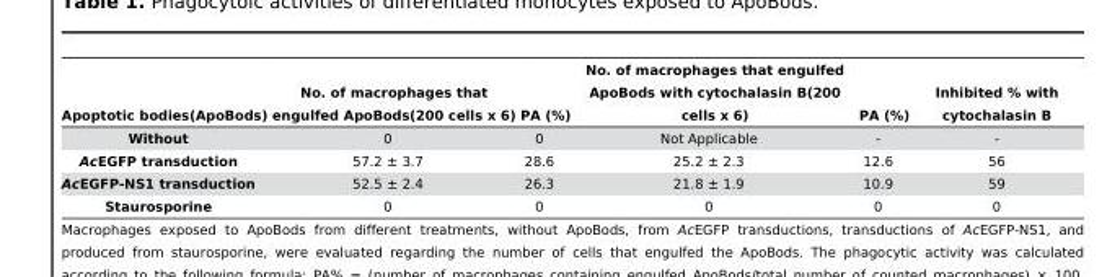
<table><thead><tr><td>Apoptotic bodies(ApoBods)</td><td>No. of macrophages that engulfed ApoBods(200 cells x 6)</td><td>PA (%)</td><td>No. of macrophages that engulfed ApoBods with cytochalasin B(200 cells x 6)</td><td>PA (%)</td><td>Inhibited % with cytochalasin B</td></tr></thead><tbody><tr><td>Without</td><td>0</td><td>0</td><td>Not Applicable</td><td>-</td><td>-</td></tr><tr><td>AcEGFP transduction</td><td>57.2 ± 3.7</td><td>28.6</td><td>25.2 ± 2.3</td><td>12.6</td><td>56</td></tr><tr><td>AcEGFP-NS1 transduction</td><td>52.5 ± 2.4</td><td>26.3</td><td>21.8 ± 1.9</td><td>10.9</td><td>59</td></tr><tr><td>Staurosporine</td><td>0</td><td>0</td><td>0</td><td>0</td><td>0</td></tr></tbody></table>